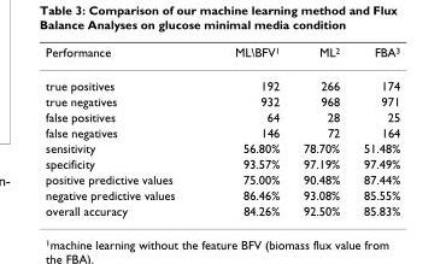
<table><thead><tr><td>Performance</td><td>ML\BFV<sup>1</sup></td><td>ML<sup>2</sup></td><td>FBA<sup>3</sup></td></tr></thead><tbody><tr><td>true positives</td><td>192</td><td>266</td><td>174</td></tr><tr><td>true negatives</td><td>932</td><td>968</td><td>971</td></tr><tr><td>false positives</td><td>64</td><td>28</td><td>25</td></tr><tr><td>false negatives</td><td>146</td><td>72</td><td>164</td></tr><tr><td>sensitivity</td><td>56.80%</td><td>78.70%</td><td>51.48%</td></tr><tr><td>specificity</td><td>93.57%</td><td>97.19%</td><td>97.49%</td></tr><tr><td>positive predictive values</td><td>75.00%</td><td>90.48%</td><td>87.44%</td></tr><tr><td>negative predictive values</td><td>86.46%</td><td>93.08%</td><td>85.55%</td></tr><tr><td>overall accuracy</td><td>84.26%</td><td>92.50%</td><td>85.83%</td></tr></tbody></table>